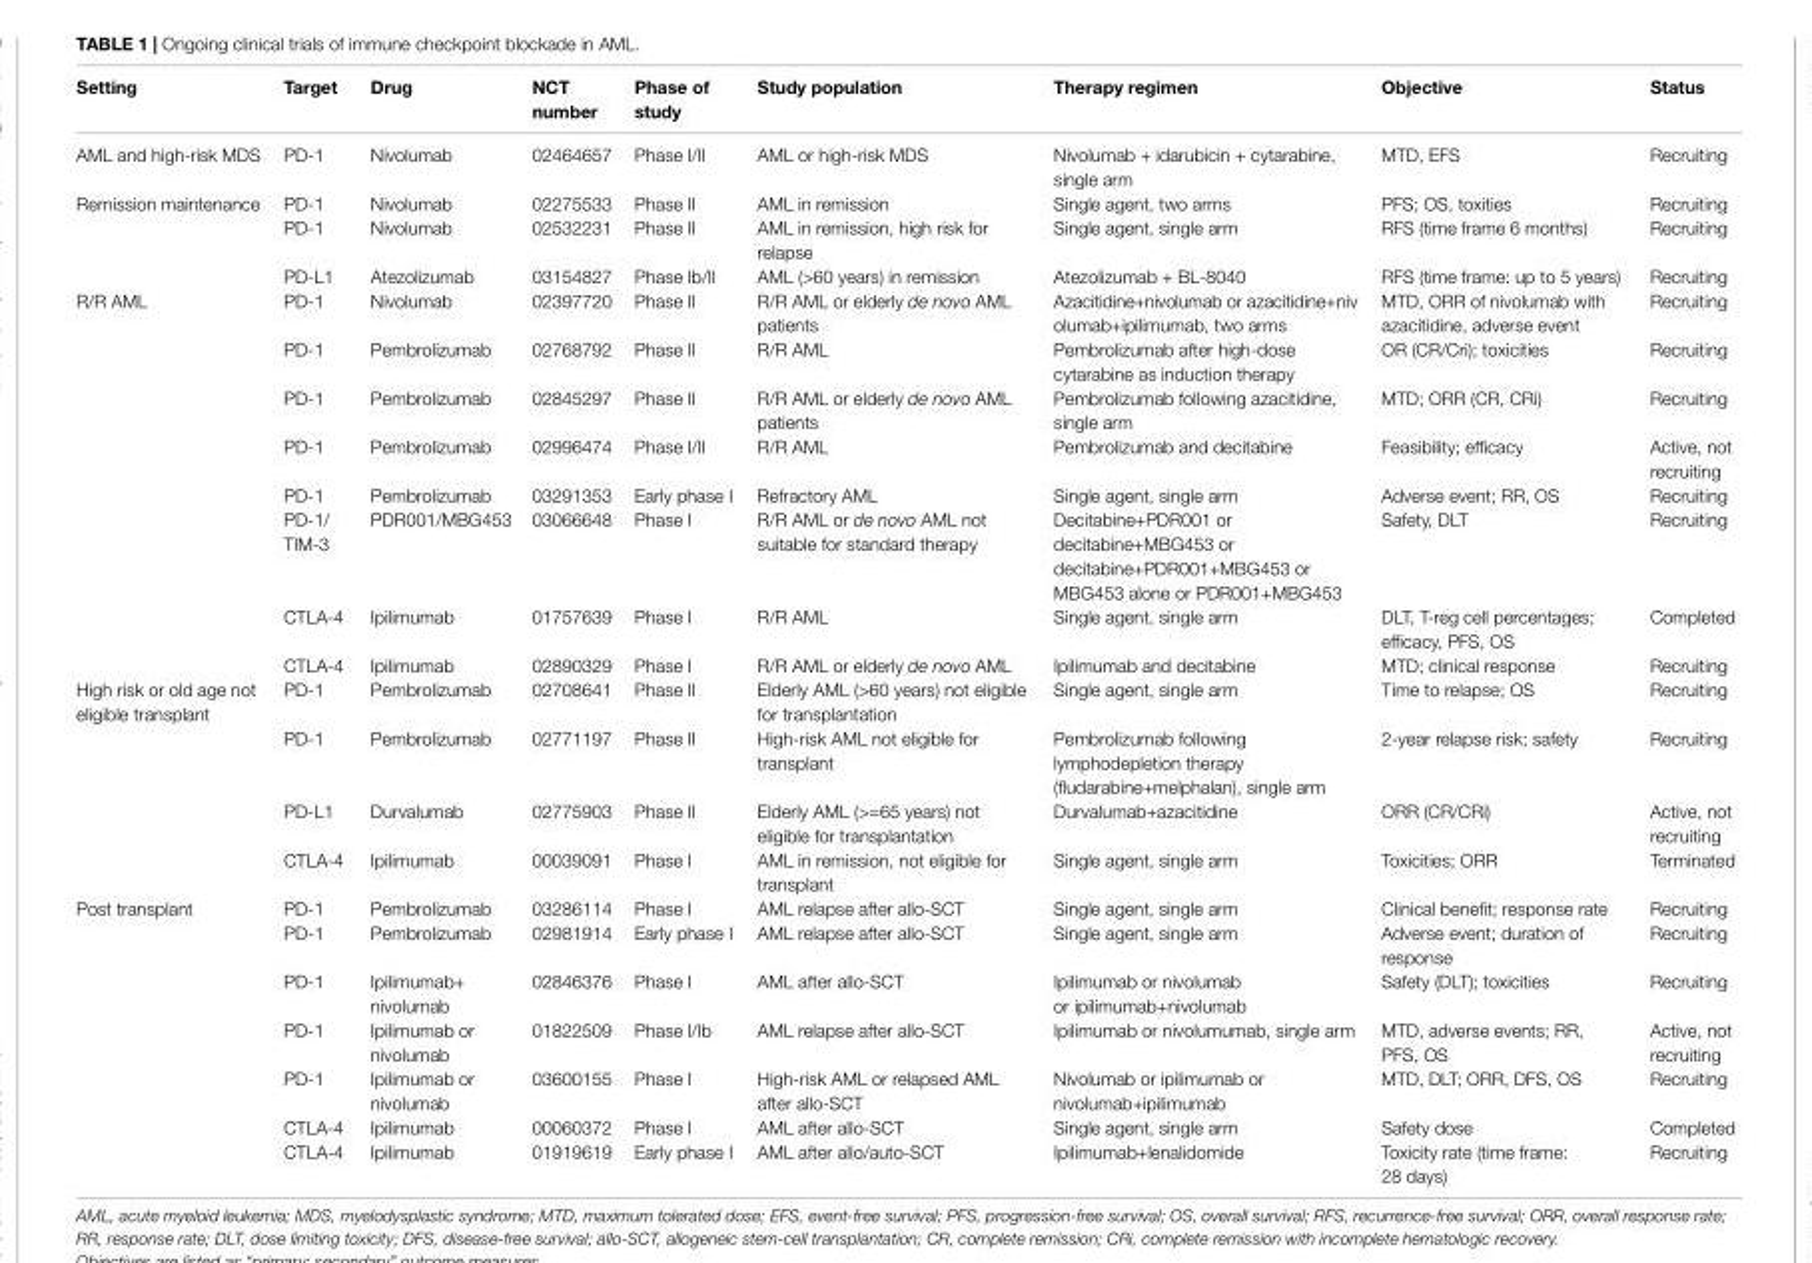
<table><thead><tr><td>Setting</td><td>Target</td><td>Drug</td><td>NCT number</td><td>Phase of study</td><td>Study population</td><td>Therapy regimen</td><td>Objective</td><td>Status</td></tr></thead><tbody><tr><td>AML and high-risk MDS</td><td>PD-1</td><td>Nivolumab</td><td>02464657</td><td>Phase I/II</td><td>AML or high-risk MDS</td><td>Nivolumab + idarubicin + cytarabine, single arm</td><td>MTD, EFS</td><td>Recruiting</td></tr><tr><td rowspan="3">Remission maintenance</td><td>PD-1</td><td>Nivolumab</td><td>02275533</td><td>Phase II</td><td>AML in remission</td><td>Single agent, two arms</td><td>PFS; OS, toxities</td><td>Recruiting</td></tr><tr><td>PD-1</td><td>Nivolumab</td><td>02532231</td><td>Phase II</td><td>AML in remission, high risk for relapse</td><td>Single agent, single arm</td><td>RFS (time frame 6 months)</td><td>Recruiting</td></tr><tr><td>PD-L1</td><td>Atezolizumab</td><td>03154827</td><td>Phase Ib/II</td><td>AML (&gt;60 years) in remission</td><td>Atezolizumab + BL-8040</td><td>RFS (time frame: up to 5 years)</td><td>Recruiting</td></tr><tr><td rowspan="8">R/R AML</td><td>PD-1</td><td>Nivolumab</td><td>02397720</td><td>Phase II</td><td>R/R AML or elderly de novo AML patients</td><td>Azacitidine+nivolumab or azacitidine+niv olumab+ipilimumab, two arms</td><td>MTD, ORR of nivolumab with azacitidine, adverse event</td><td>Recruiting</td></tr><tr><td>PD-1</td><td>Pembrolizumab</td><td>02768792</td><td>Phase II</td><td>R/R AML</td><td>Pembrolizumab after high-dose cytarabine as induction therapy</td><td>OR (CR/Cri); toxicities</td><td>Recruiting</td></tr><tr><td>PD-1</td><td>Pembrolizumab</td><td>02845297</td><td>Phase II</td><td>R/R AML or elderly de novo AML patients</td><td>Pembrolizumab following azacitidine, single arm</td><td>MTD; ORR (CR, CRi)</td><td>Recruiting</td></tr><tr><td>PD-1</td><td>Pembrolizumab</td><td>02996474</td><td>Phase I/II</td><td>R/R AML</td><td>Pembrolizumab and decitabine</td><td>Feasibility; efficacy</td><td>Active, not recruiting</td></tr><tr><td>PD-1</td><td>Pembrolizumab</td><td>03291353</td><td>Early phase I</td><td>Refractory AML</td><td>Single agent, single arm</td><td>Adverse event; RR, OS</td><td>Recruiting</td></tr><tr><td>PD-1/ TIM-3</td><td>PDR001/MBG453</td><td>03066648</td><td>Phase I</td><td>R/R AML or de novo AML not suitable for standard therapy</td><td>Decitabine+PDR001 or decitabine+MBG453 or decitabine+PDR001+MBG453 or MBG453 alone or PDR001+MBG453</td><td>Safety, DLT</td><td>Recruiting</td></tr><tr><td>CTLA-4</td><td>Ipilimumab</td><td>01757639</td><td>Phase I</td><td>R/R AML</td><td>Single agent, single arm</td><td>DLT, T-reg cell percentages; efficacy, PFS, OS</td><td>Completed</td></tr><tr><td>CTLA-4</td><td>Ipilimumab</td><td>02890329</td><td>Phase I</td><td>R/R AML or elderly de novo AML</td><td>Ipilimumab and decitabine</td><td>MTD; clinical response</td><td>Recruiting</td></tr><tr><td rowspan="4">High risk or old age not eligible transplant</td><td>PD-1</td><td>Pembrolizumab</td><td>02708641</td><td>Phase II</td><td>Elderly AML (&gt;60 years) not eligible for transplantation</td><td>Single agent, single arm</td><td>Time to relapse; OS</td><td>Recruiting</td></tr><tr><td>PD-1</td><td>Pembrolizumab</td><td>02771197</td><td>Phase II</td><td>High-risk AML not eligible for transplant</td><td>Pembrolizumab following lymphodepletion therapy (fludarabine+melphalan), single arm</td><td>2-year relapse risk; safety</td><td>Recruiting</td></tr><tr><td>PD-L1</td><td>Durvalumab</td><td>02775903</td><td>Phase II</td><td>Elderly AML (&gt;=65 years) not eligible for transplantation</td><td>Durvalumab+azacitidine</td><td>ORR (CR/CRi)</td><td>Active, not recruiting</td></tr><tr><td>CTLA-4</td><td>Ipilimumab</td><td>00039091</td><td>Phase I</td><td>AML in remission, not eligible for transplant</td><td>Single agent, single arm</td><td>Toxicities; ORR</td><td>Terminated</td></tr><tr><td rowspan="7">Post transplant</td><td>PD-1</td><td>Pembrolizumab</td><td>03286114</td><td>Phase I</td><td>AML relapse after allo-SCT</td><td>Single agent, single arm</td><td>Clinical benefit; response rate</td><td>Recruiting</td></tr><tr><td>PD-1</td><td>Pembrolizumab</td><td>02981914</td><td>Early phase I</td><td>AML relapse after allo-SCT</td><td>Single agent, single arm</td><td>Adverse event; duration of response</td><td>Recruiting</td></tr><tr><td>PD-1</td><td>Ipilimumab+ nivolumab</td><td>02846376</td><td>Phase I</td><td>AML after allo-SCT</td><td>Ipilimumab or nivolumab or ipilimumab+nivolumab</td><td>Safety (DLT); toxicities</td><td>Recruiting</td></tr><tr><td>PD-1</td><td>Ipilimumab or nivolumab</td><td>01822509</td><td>Phase I/Ib</td><td>AML relapse after allo-SCT</td><td>Ipilimumab or nivolumumab, single arm</td><td>MTD, adverse events; RR, PFS, OS</td><td>Active, not recruiting</td></tr><tr><td>PD-1</td><td>Ipilimumab or nivolumab</td><td>03600155</td><td>Phase I</td><td>High-risk AML or relapsed AML after allo-SCT</td><td>Nivolumab or ipilimumab or nivolumab+ipilimumab</td><td>MTD, DLT; ORR, DFS, OS</td><td>Recruiting</td></tr><tr><td>CTLA-4</td><td>Ipilimumab</td><td>00060372</td><td>Phase I</td><td>AML after allo-SCT</td><td>Single agent, single arm</td><td>Safety dose</td><td>Completed</td></tr><tr><td>CTLA-4</td><td>Ipilimumab</td><td>01919619</td><td>Early phase I</td><td>AML after allo/auto-SCT</td><td>Ipilimumab+lenalidomide</td><td>Toxicity rate (time frame: 28 days)</td><td>Recruiting</td></tr></tbody></table>